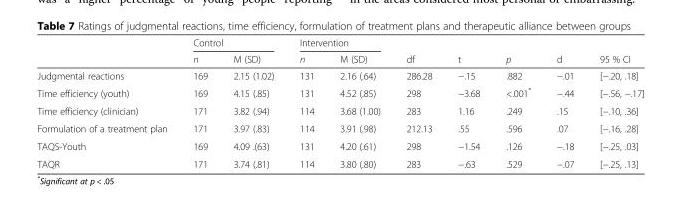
<table><thead><tr><td rowspan="2"></td><td colspan="2">Control</td><td colspan="2">Intervention</td><td rowspan="2">df</td><td rowspan="2">t</td><td rowspan="2">p</td><td rowspan="2">d</td><td rowspan="2">95 % CI</td></tr><tr><td>n</td><td>M (SD)</td><td>n</td><td>M (SD)</td></tr></thead><tbody><tr><td>Judgmental reactions</td><td>169</td><td>2.15 (1.02)</td><td>131</td><td>2.16 (.64)</td><td>286.28</td><td>−.15</td><td>.882</td><td>−.01</td><td>[−.20, .18]</td></tr><tr><td>Time efficiency (youth)</td><td>169</td><td>4.15 (.85)</td><td>131</td><td>4.52 (.85)</td><td>298</td><td>−3.68</td><td>&lt;.001*</td><td>−.44</td><td>[−.56, −.17]</td></tr><tr><td>Time efficiency (clinician)</td><td>171</td><td>3.82 (.94)</td><td>114</td><td>3.68 (1.00)</td><td>283</td><td>1.16</td><td>.249</td><td>.15</td><td>[−.10, .36]</td></tr><tr><td>Formulation of a treatment plan</td><td>171</td><td>3.97 (.83)</td><td>114</td><td>3.91 (.98)</td><td>212.13</td><td>.55</td><td>.596</td><td>.07</td><td>[−.16, .28]</td></tr><tr><td>TAQS-Youth</td><td>169</td><td>4.09 .(63)</td><td>131</td><td>4.20 (.61)</td><td>298</td><td>−1.54</td><td>.126</td><td>−.18</td><td>[−.25, .03]</td></tr><tr><td>TAQR</td><td>171</td><td>3.74 (.81)</td><td>114</td><td>3.80 (.80)</td><td>283</td><td>−.63</td><td>.529</td><td>−.07</td><td>[−.25, .13]</td></tr></tbody></table>